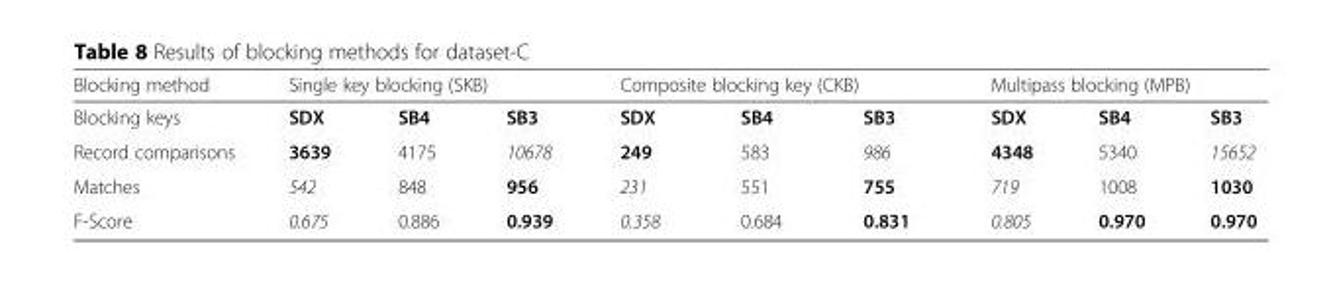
<table><thead><tr><td rowspan="2">Blocking method Blocking keys</td><td colspan="3">Single key blocking (SKB)</td><td colspan="3">Composite blocking key (CKB)</td><td colspan="3">Multipass blocking (MPB)</td></tr><tr><td>SDX</td><td>SB4</td><td>SB3</td><td>SDX</td><td>SB4</td><td>SB3</td><td>SDX</td><td>SB4</td><td>SB3</td></tr></thead><tbody><tr><td>Record comparisons</td><td>3639</td><td>4175</td><td>10678</td><td>249</td><td>583</td><td>986</td><td>4348</td><td>5340</td><td>15652</td></tr><tr><td>Matches</td><td>542</td><td>848</td><td>956</td><td>231</td><td>551</td><td>755</td><td>719</td><td>1008</td><td>1030</td></tr><tr><td>F-Score</td><td>0.675</td><td>0.886</td><td>0.939</td><td>0.358</td><td>0.684</td><td>0.831</td><td>0.805</td><td>0.970</td><td>0.970</td></tr></tbody></table>